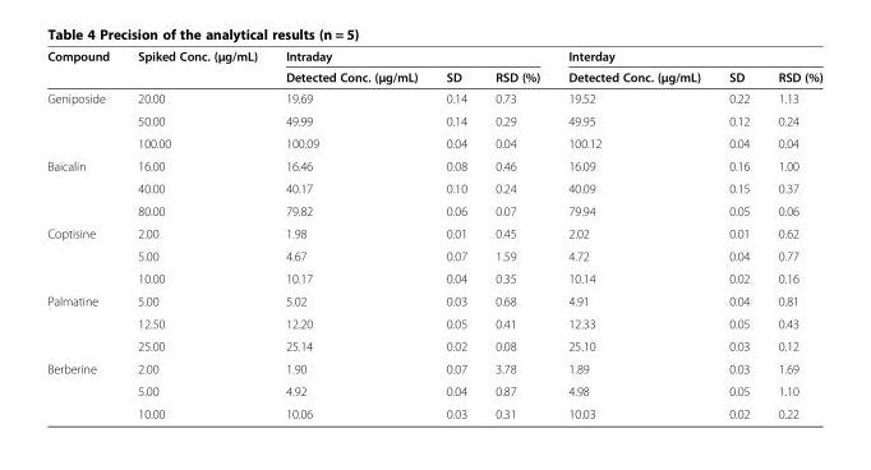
<table><thead><tr><td rowspan="2">Compound</td><td rowspan="2">Spiked Conc. (μg/mL)</td><td colspan="3">Intraday</td><td colspan="3">Interday</td></tr><tr><td>Detected Conc. (μg/mL)</td><td>SD</td><td>RSD (%)</td><td>Detected Conc. (μg/mL)</td><td>SD</td><td>RSD (%)</td></tr></thead><tbody><tr><td rowspan="3">Geniposide</td><td>20.00</td><td>19.69</td><td>0.14</td><td>0.73</td><td>19.52</td><td>0.22</td><td>1.13</td></tr><tr><td>50.00</td><td>49.99</td><td>0.14</td><td>0.29</td><td>49.95</td><td>0.12</td><td>0.24</td></tr><tr><td>100.00</td><td>100.09</td><td>0.04</td><td>0.04</td><td>100.12</td><td>0.04</td><td>0.04</td></tr><tr><td rowspan="3">Baicalin</td><td>16.00</td><td>16.46</td><td>0.08</td><td>0.46</td><td>16.09</td><td>0.16</td><td>1.00</td></tr><tr><td>40.00</td><td>40.17</td><td>0.10</td><td>0.24</td><td>40.09</td><td>0.15</td><td>0.37</td></tr><tr><td>80.00</td><td>79.82</td><td>0.06</td><td>0.07</td><td>79.94</td><td>0.05</td><td>0.06</td></tr><tr><td rowspan="3">Coptisine</td><td>2.00</td><td>1.98</td><td>0.01</td><td>0.45</td><td>2.02</td><td>0.01</td><td>0.62</td></tr><tr><td>5.00</td><td>4.67</td><td>0.07</td><td>1.59</td><td>4.72</td><td>0.04</td><td>0.77</td></tr><tr><td>10.00</td><td>10.17</td><td>0.04</td><td>0.35</td><td>10.14</td><td>0.02</td><td>0.16</td></tr><tr><td rowspan="3">Palmatine</td><td>5.00</td><td>5.02</td><td>0.03</td><td>0.68</td><td>4.91</td><td>0.04</td><td>0.81</td></tr><tr><td>12.50</td><td>12.20</td><td>0.05</td><td>0.41</td><td>12.33</td><td>0.05</td><td>0.43</td></tr><tr><td>25.00</td><td>25.14</td><td>0.02</td><td>0.08</td><td>25.10</td><td>0.03</td><td>0.12</td></tr><tr><td rowspan="3">Berberine</td><td>2.00</td><td>1.90</td><td>0.07</td><td>3.78</td><td>1.89</td><td>0.03</td><td>1.69</td></tr><tr><td>5.00</td><td>4.92</td><td>0.04</td><td>0.87</td><td>4.98</td><td>0.05</td><td>1.10</td></tr><tr><td>10.00</td><td>10.06</td><td>0.03</td><td>0.31</td><td>10.03</td><td>0.02</td><td>0.22</td></tr></tbody></table>